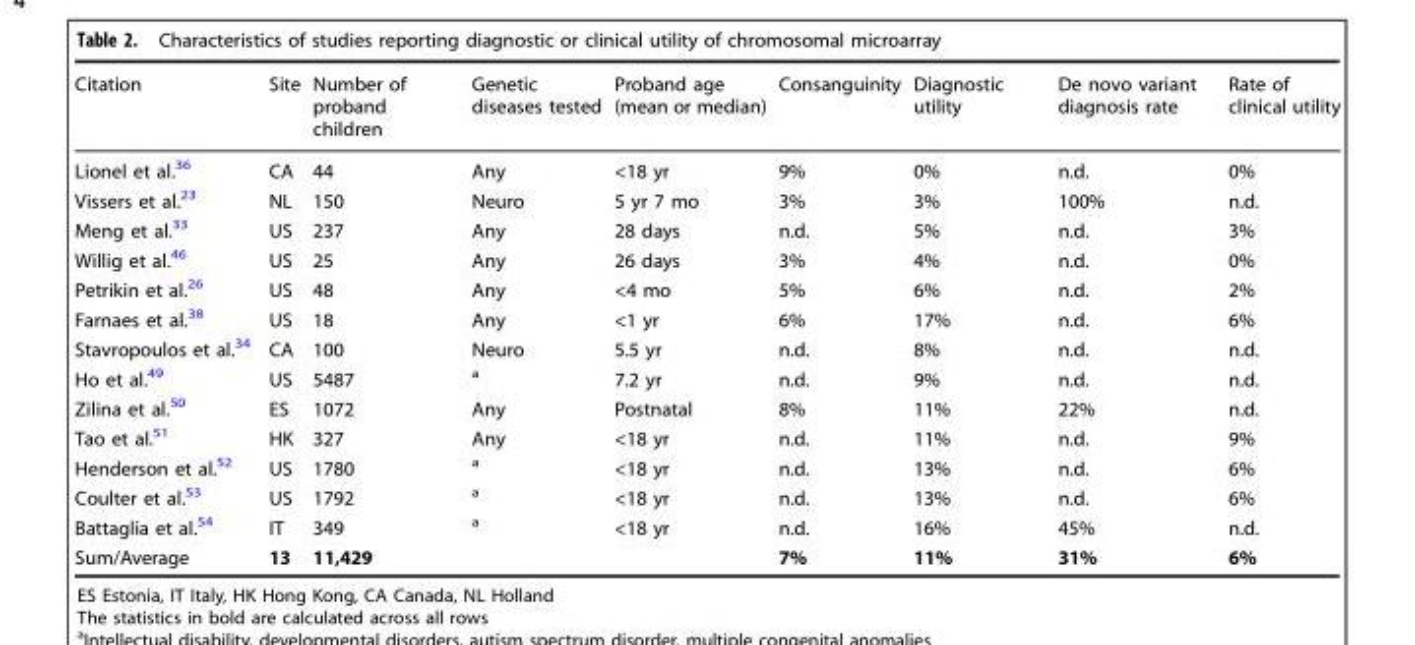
<table><thead><tr><td>Citation</td><td>Site</td><td>Number of proband children</td><td>Genetic diseases tested</td><td>Proband age (mean or median)</td><td>Consanguinity</td><td>Diagnostic utility</td><td>De novo variant diagnosis rate</td><td>Rate of clinical utility</td></tr></thead><tbody><tr><td>Lionel et al.<sup>36</sup></td><td>CA</td><td>44</td><td>Any</td><td>&lt;18 yr</td><td>9%</td><td>0%</td><td>n.d.</td><td>0%</td></tr><tr><td>Vissers et al.<sup>23</sup></td><td>NL</td><td>150</td><td>Neuro</td><td>5 yr 7 mo</td><td>3%</td><td>3%</td><td>100%</td><td>n.d.</td></tr><tr><td>Meng et al.<sup>33</sup></td><td>US</td><td>237</td><td>Any</td><td>28 days</td><td>n.d.</td><td>5%</td><td>n.d.</td><td>3%</td></tr><tr><td>Willig et al.<sup>46</sup></td><td>US</td><td>25</td><td>Any</td><td>26 days</td><td>3%</td><td>4%</td><td>n.d.</td><td>0%</td></tr><tr><td>Petrikin et al.<sup>26</sup></td><td>US</td><td>48</td><td>Any</td><td>&lt;4 mo</td><td>5%</td><td>6%</td><td>n.d.</td><td>2%</td></tr><tr><td>Farnaes et al.<sup>38</sup></td><td>US</td><td>18</td><td>Any</td><td>&lt;1 yr</td><td>6%</td><td>17%</td><td>n.d.</td><td>6%</td></tr><tr><td>Stavropoulos et al.<sup>34</sup></td><td>CA</td><td>100</td><td>Neuro</td><td>5.5 yr</td><td>n.d.</td><td>8%</td><td>n.d.</td><td>n.d.</td></tr><tr><td>Ho et al.<sup>49</sup></td><td>US</td><td>5487</td><td><sup>a</sup></td><td>7.2 yr</td><td>n.d.</td><td>9%</td><td>n.d.</td><td>n.d.</td></tr><tr><td>Zilina et al.<sup>50</sup></td><td>ES</td><td>1072</td><td>Any</td><td>Postnatal</td><td>8%</td><td>11%</td><td>22%</td><td>n.d.</td></tr><tr><td>Tao et al.<sup>51</sup></td><td>HK</td><td>327</td><td>Any</td><td>&lt;18 yr</td><td>n.d.</td><td>11%</td><td>n.d.</td><td>9%</td></tr><tr><td>Henderson et al.<sup>52</sup></td><td>US</td><td>1780</td><td><sup>a</sup></td><td>&lt;18 yr</td><td>n.d.</td><td>13%</td><td>n.d.</td><td>6%</td></tr><tr><td>Coulter et al.<sup>53</sup></td><td>US</td><td>1792</td><td><sup>a</sup></td><td>&lt;18 yr</td><td>n.d.</td><td>13%</td><td>n.d.</td><td>6%</td></tr><tr><td>Battaglia et al.<sup>54</sup></td><td>IT</td><td>349</td><td><sup>a</sup></td><td>&lt;18 yr</td><td>n.d.</td><td>16%</td><td>45%</td><td>n.d.</td></tr><tr><td>Sum/Average</td><td>13</td><td>11,429</td><td></td><td></td><td>7%</td><td>11%</td><td>31%</td><td>6%</td></tr></tbody></table>